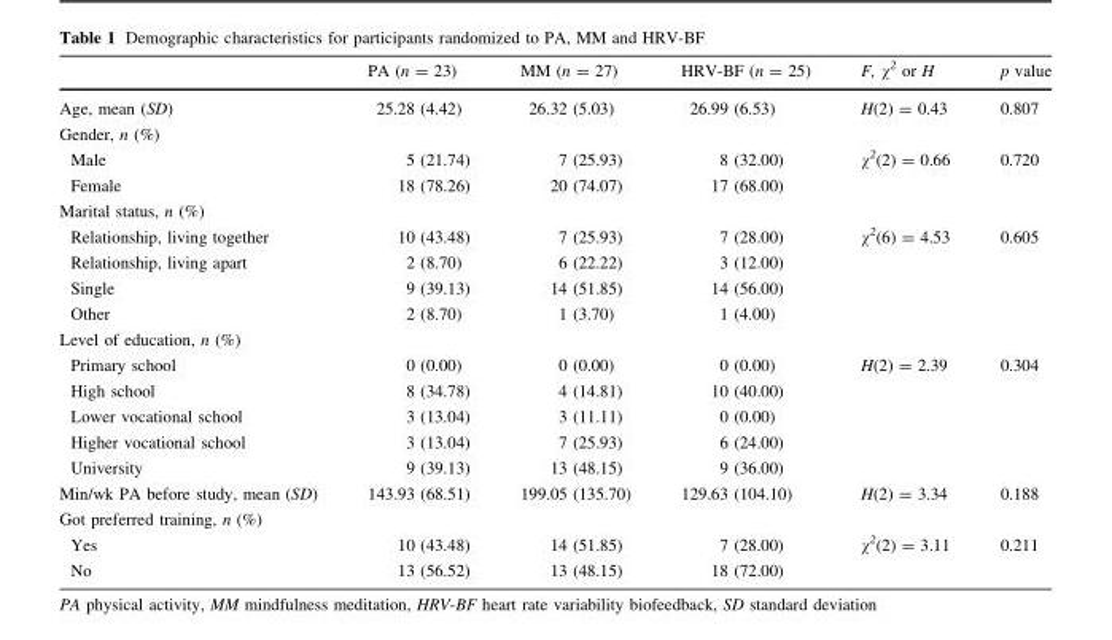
<table><thead><tr><td></td><td>PA (n = 23)</td><td>MM (n = 27)</td><td>HRV-BF (n = 25)</td><td>F, χ<sup>2</sup> or H</td><td>p value</td></tr></thead><tbody><tr><td>Age, mean (SD)</td><td>25.28 (4.42)</td><td>26.32 (5.03)</td><td>26.99 (6.53)</td><td>H(2) = 0.43</td><td>0.807</td></tr><tr><td colspan="6">Gender, n (%)</td></tr><tr><td>Male</td><td>5 (21.74)</td><td>7 (25.93)</td><td>8 (32.00)</td><td>χ<sup>2</sup>(2) = 0.66</td><td>0.720</td></tr><tr><td>Female</td><td>18 (78.26)</td><td>20 (74.07)</td><td>17 (68.00)</td><td></td><td></td></tr><tr><td colspan="6">Marital status, n (%)</td></tr><tr><td>Relationship, living together</td><td>10 (43.48)</td><td>7 (25.93)</td><td>7 (28.00)</td><td>χ<sup>2</sup>(6) = 4.53</td><td>0.605</td></tr><tr><td>Relationship, living apart</td><td>2 (8.70)</td><td>6 (22.22)</td><td>3 (12.00)</td><td></td><td></td></tr><tr><td>Single</td><td>9 (39.13)</td><td>14 (51.85)</td><td>14 (56.00)</td><td></td><td></td></tr><tr><td>Other</td><td>2 (8.70)</td><td>1 (3.70)</td><td>1 (4.00)</td><td></td><td></td></tr><tr><td colspan="6">Level of education, n (%)</td></tr><tr><td>Primary school</td><td>0 (0.00)</td><td>0 (0.00)</td><td>0 (0.00)</td><td>H(2) = 2.39</td><td>0.304</td></tr><tr><td>High school</td><td>8 (34.78)</td><td>4 (14.81)</td><td>10 (40.00)</td><td></td><td></td></tr><tr><td>Lower vocational school</td><td>3 (13.04)</td><td>3 (11.11)</td><td>0 (0.00)</td><td></td><td></td></tr><tr><td>Higher vocational school</td><td>3 (13.04)</td><td>7 (25.93)</td><td>6 (24.00)</td><td></td><td></td></tr><tr><td>University</td><td>9 (39.13)</td><td>13 (48.15)</td><td>9 (36.00)</td><td></td><td></td></tr><tr><td>Min/wk PA before study, mean (SD)</td><td>143.93 (68.51)</td><td>199.05 (135.70)</td><td>129.63 (104.10)</td><td>H(2) = 3.34</td><td>0.188</td></tr><tr><td colspan="6">Got preferred training, n (%)</td></tr><tr><td>Yes</td><td>10 (43.48)</td><td>14 (51.85)</td><td>7 (28.00)</td><td>χ<sup>2</sup>(2) = 3.11</td><td>0.211</td></tr><tr><td>No</td><td>13 (56.52)</td><td>13 (48.15)</td><td>18 (72.00)</td><td></td><td></td></tr></tbody></table>